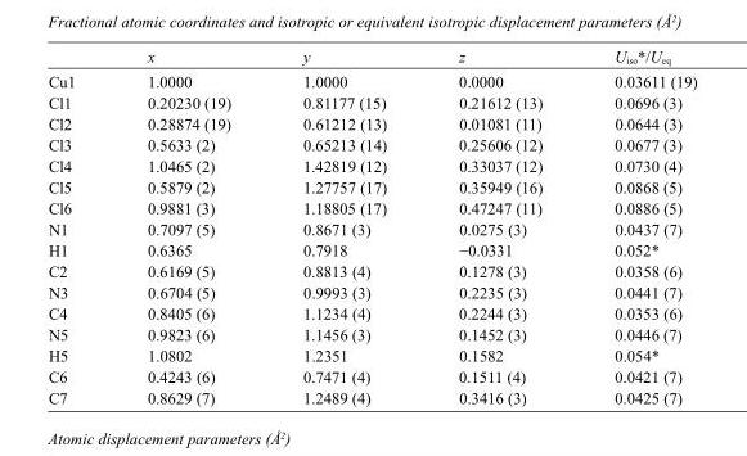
<table><thead><tr><td></td><td>x</td><td>y</td><td>z</td><td>U<sub>iso</sub>*/U<sub>eq</sub></td></tr></thead><tbody><tr><td>Cu1</td><td>1.0000</td><td>1.0000</td><td>0.0000</td><td>0.03611 (19)</td></tr><tr><td>Cl1</td><td>0.20230 (19)</td><td>0.81177 (15)</td><td>0.21612 (13)</td><td>0.0696 (3)</td></tr><tr><td>Cl2</td><td>0.28874 (19)</td><td>0.61212 (13)</td><td>0.01081 (11)</td><td>0.0644 (3)</td></tr><tr><td>Cl3</td><td>0.5633 (2)</td><td>0.65213 (14)</td><td>0.25606 (12)</td><td>0.0677 (3)</td></tr><tr><td>Cl4</td><td>1.0465 (2)</td><td>1.42819 (12)</td><td>0.33037 (12)</td><td>0.0730 (4)</td></tr><tr><td>Cl5</td><td>0.5879 (2)</td><td>1.27757 (17)</td><td>0.35949 (16)</td><td>0.0868 (5)</td></tr><tr><td>Cl6</td><td>0.9881 (3)</td><td>1.18805 (17)</td><td>0.47247 (11)</td><td>0.0886 (5)</td></tr><tr><td>N1</td><td>0.7097 (5)</td><td>0.8671 (3)</td><td>0.0275 (3)</td><td>0.0437 (7)</td></tr><tr><td>H1</td><td>0.6365</td><td>0.7918</td><td>−0.0331</td><td>0.052*</td></tr><tr><td>C2</td><td>0.6169 (5)</td><td>0.8813 (4)</td><td>0.1278 (3)</td><td>0.0358 (6)</td></tr><tr><td>N3</td><td>0.6704 (5)</td><td>0.9993 (3)</td><td>0.2235 (3)</td><td>0.0441 (7)</td></tr><tr><td>C4</td><td>0.8405 (6)</td><td>1.1234 (4)</td><td>0.2244 (3)</td><td>0.0353 (6)</td></tr><tr><td>N5</td><td>0.9823 (6)</td><td>1.1456 (3)</td><td>0.1452 (3)</td><td>0.0446 (7)</td></tr><tr><td>H5</td><td>1.0802</td><td>1.2351</td><td>0.1582</td><td>0.054*</td></tr><tr><td>C6</td><td>0.4243 (6)</td><td>0.7471 (4)</td><td>0.1511 (4)</td><td>0.0421 (7)</td></tr><tr><td>C7</td><td>0.8629 (7)</td><td>1.2489 (4)</td><td>0.3416 (3)</td><td>0.0425 (7)</td></tr></tbody></table>